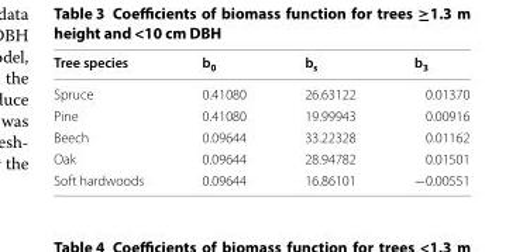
<table><thead><tr><td>Tree species</td><td>b<sub>0</sub></td><td>b<sub>s</sub></td><td>b<sub>3</sub></td></tr></thead><tbody><tr><td>Spruce</td><td>0.41080</td><td>26.63122</td><td>0.01370</td></tr><tr><td>Pine</td><td>0.41080</td><td>19.99943</td><td>0.00916</td></tr><tr><td>Beech</td><td>0.09644</td><td>33.22328</td><td>0.01162</td></tr><tr><td>Oak</td><td>0.09644</td><td>28.94782</td><td>0.01501</td></tr><tr><td>Soft hardwoods</td><td>0.09644</td><td>16.86101</td><td>−0.00551</td></tr></tbody></table>